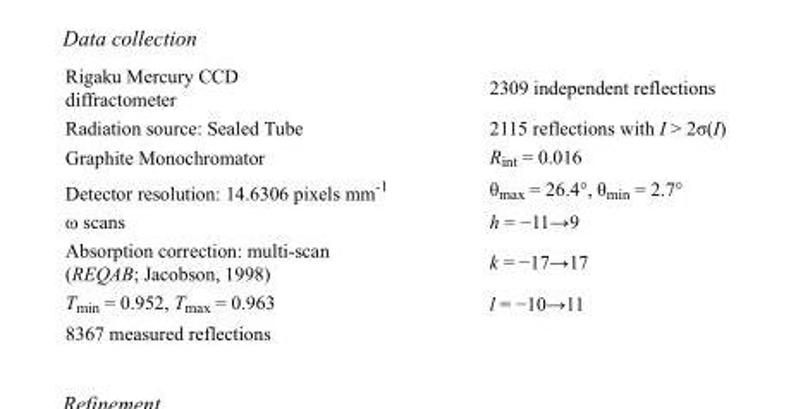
<table><tbody><tr><td>Rigaku Mercury CCD diffractometer</td><td>2309 independent reflections</td></tr><tr><td>Radiation source: Sealed Tube</td><td>2115 reflections with I &gt; 2σ(I)</td></tr><tr><td>Graphite Monochromator</td><td>R<sub>int</sub> = 0.016</td></tr><tr><td>Detector resolution: 14.6306 pixels mm<sup>-1</sup></td><td>θ<sub>max</sub> = 26.4°, θ<sub>min</sub> = 2.7°</td></tr><tr><td>ω scans</td><td>h = −11→9</td></tr><tr><td>Absorption correction: multi-scan (REQAB; Jacobson, 1998)</td><td>k = −17→17</td></tr><tr><td>T<sub>min</sub> = 0.952, T<sub>max</sub> = 0.963</td><td>l = −10→11</td></tr><tr><td>8367 measured reflections</td><td></td></tr></tbody></table>